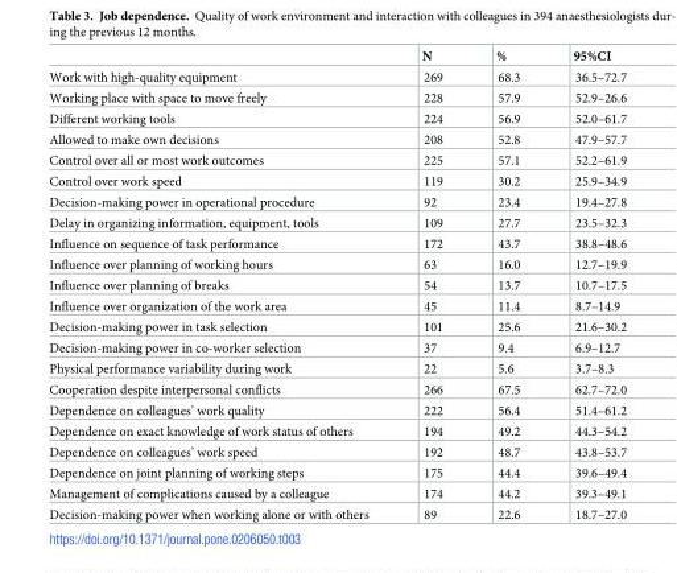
<table><thead><tr><td></td><td>N</td><td>%</td><td>95%CI</td></tr></thead><tbody><tr><td>Work with high-quality equipment</td><td>269</td><td>68.3</td><td>36.5–72.7</td></tr><tr><td>Working place with space to move freely</td><td>228</td><td>57.9</td><td>52.9–26.6</td></tr><tr><td>Different working tools</td><td>224</td><td>56.9</td><td>52.0–61.7</td></tr><tr><td>Allowed to make own decisions</td><td>208</td><td>52.8</td><td>47.9–57.7</td></tr><tr><td>Control over all or most work outcomes</td><td>225</td><td>57.1</td><td>52.2–61.9</td></tr><tr><td>Control over work speed</td><td>119</td><td>30.2</td><td>25.9–34.9</td></tr><tr><td>Decision-making power in operational procedure</td><td>92</td><td>23.4</td><td>19.4–27.8</td></tr><tr><td>Delay in organizing information, equipment, tools</td><td>109</td><td>27.7</td><td>23.5–32.3</td></tr><tr><td>Influence on sequence of task performance</td><td>172</td><td>43.7</td><td>38.8–48.6</td></tr><tr><td>Influence over planning of working hours</td><td>63</td><td>16.0</td><td>12.7–19.9</td></tr><tr><td>Influence over planning of breaks</td><td>54</td><td>13.7</td><td>10.7–17.5</td></tr><tr><td>Influence over organization of the work area</td><td>45</td><td>11.4</td><td>8.7–14.9</td></tr><tr><td>Decision-making power in task selection</td><td>101</td><td>25.6</td><td>21.6–30.2</td></tr><tr><td>Decision-making power in co-worker selection</td><td>37</td><td>9.4</td><td>6.9–12.7</td></tr><tr><td>Physical performance variability during work</td><td>22</td><td>5.6</td><td>3.7–8.3</td></tr><tr><td>Cooperation despite interpersonal conflicts</td><td>266</td><td>67.5</td><td>62.7–72.0</td></tr><tr><td>Dependence on colleagues’ work quality</td><td>222</td><td>56.4</td><td>51.4–61.2</td></tr><tr><td>Dependence on exact knowledge of work status of others</td><td>194</td><td>49.2</td><td>44.3–54.2</td></tr><tr><td>Dependence on colleagues’ work speed</td><td>192</td><td>48.7</td><td>43.8–53.7</td></tr><tr><td>Dependence on joint planning of working steps</td><td>175</td><td>44.4</td><td>39.6–49.4</td></tr><tr><td>Management of complications caused by a colleague</td><td>174</td><td>44.2</td><td>39.3–49.1</td></tr><tr><td>Decision-making power when working alone or with others</td><td>89</td><td>22.6</td><td>18.7–27.0</td></tr></tbody></table>